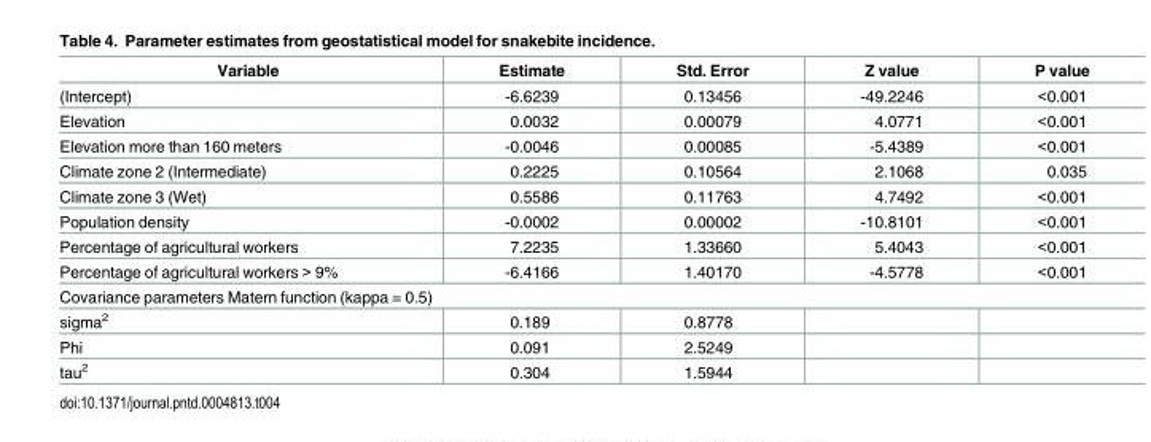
<table><thead><tr><td>Variable</td><td>Estimate</td><td>Std. Error</td><td>Z value</td><td>P value</td></tr></thead><tbody><tr><td>(Intercept)</td><td>-6.6239</td><td>0.13456</td><td>-49.2246</td><td>&lt;0.001</td></tr><tr><td>Elevation</td><td>0.0032</td><td>0.00079</td><td>4.0771</td><td>&lt;0.001</td></tr><tr><td>Elevation more than 160 meters</td><td>-0.0046</td><td>0.00085</td><td>-5.4389</td><td>&lt;0.001</td></tr><tr><td>Climate zone 2 (Intermediate)</td><td>0.2225</td><td>0.10564</td><td>2.1068</td><td>0.035</td></tr><tr><td>Climate zone 3 (Wet)</td><td>0.5586</td><td>0.11763</td><td>4.7492</td><td>&lt;0.001</td></tr><tr><td>Population density</td><td>-0.0002</td><td>0.00002</td><td>-10.8101</td><td>&lt;0.001</td></tr><tr><td>Percentage of agricultural workers</td><td>7.2235</td><td>1.33660</td><td>5.4043</td><td>&lt;0.001</td></tr><tr><td>Percentage of agricultural workers &gt; 9%</td><td>-6.4166</td><td>1.40170</td><td>-4.5778</td><td>&lt;0.001</td></tr><tr><td colspan="5">Covariance parameters Matern function (kappa = 0.5)</td></tr><tr><td>sigma<sup>2</sup></td><td>0.189</td><td>0.8778</td><td></td><td></td></tr><tr><td>Phi</td><td>0.091</td><td>2.5249</td><td></td><td></td></tr><tr><td>tau<sup>2</sup></td><td>0.304</td><td>1.5944</td><td></td><td></td></tr></tbody></table>